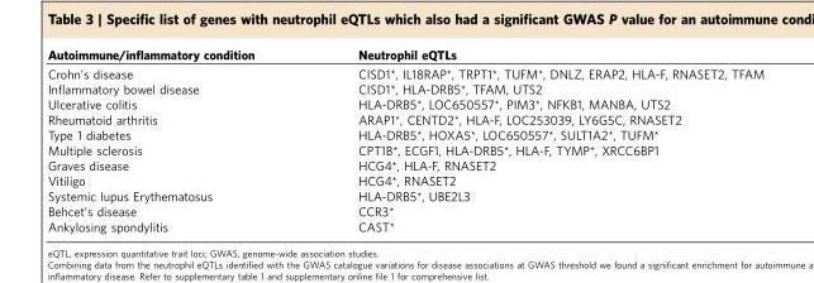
<table><thead><tr><td>Autoimmune/inflammatory condition</td><td>Neutrophil eQTLs</td></tr></thead><tbody><tr><td>Crohn’s disease</td><td>CISD1*, IL18RAP*, TRPT1*, TUFM*, DNLZ, ERAP2, HLA-F, RNASET2, TFAM</td></tr><tr><td>Inflammatory bowel disease</td><td>CISD1*, HLA-DRB5*, TFAM, UTS2</td></tr><tr><td>Ulcerative colitis</td><td>HLA-DRB5*, LOC650557*, PIM3*, NFKB1, MANBA, UTS2</td></tr><tr><td>Rheumatoid arthritis</td><td>ARAP1*, CENTD2*, HLA-F, LOC253039, LY6G5C, RNASET2</td></tr><tr><td>Type 1 diabetes</td><td>HLA-DRB5*, HOXA5*, LOC650557*, SULT1A2*, TUFM*</td></tr><tr><td>Multiple sclerosis</td><td>CPT1B*, ECGF1, HLA-DRB5*, HLA-F, TYMP*, XRCC6BP1</td></tr><tr><td>Graves disease</td><td>HCG4*, HLA-F, RNASET2</td></tr><tr><td>Vitiligo</td><td>HCG4*, RNASET2</td></tr><tr><td>Systemic lupus Erythematosus</td><td>HLA-DRB5*, UBE2L3</td></tr><tr><td>Behcet’s disease</td><td>CCR3*</td></tr><tr><td>Ankylosing spondylitis</td><td>CAST*</td></tr></tbody></table>